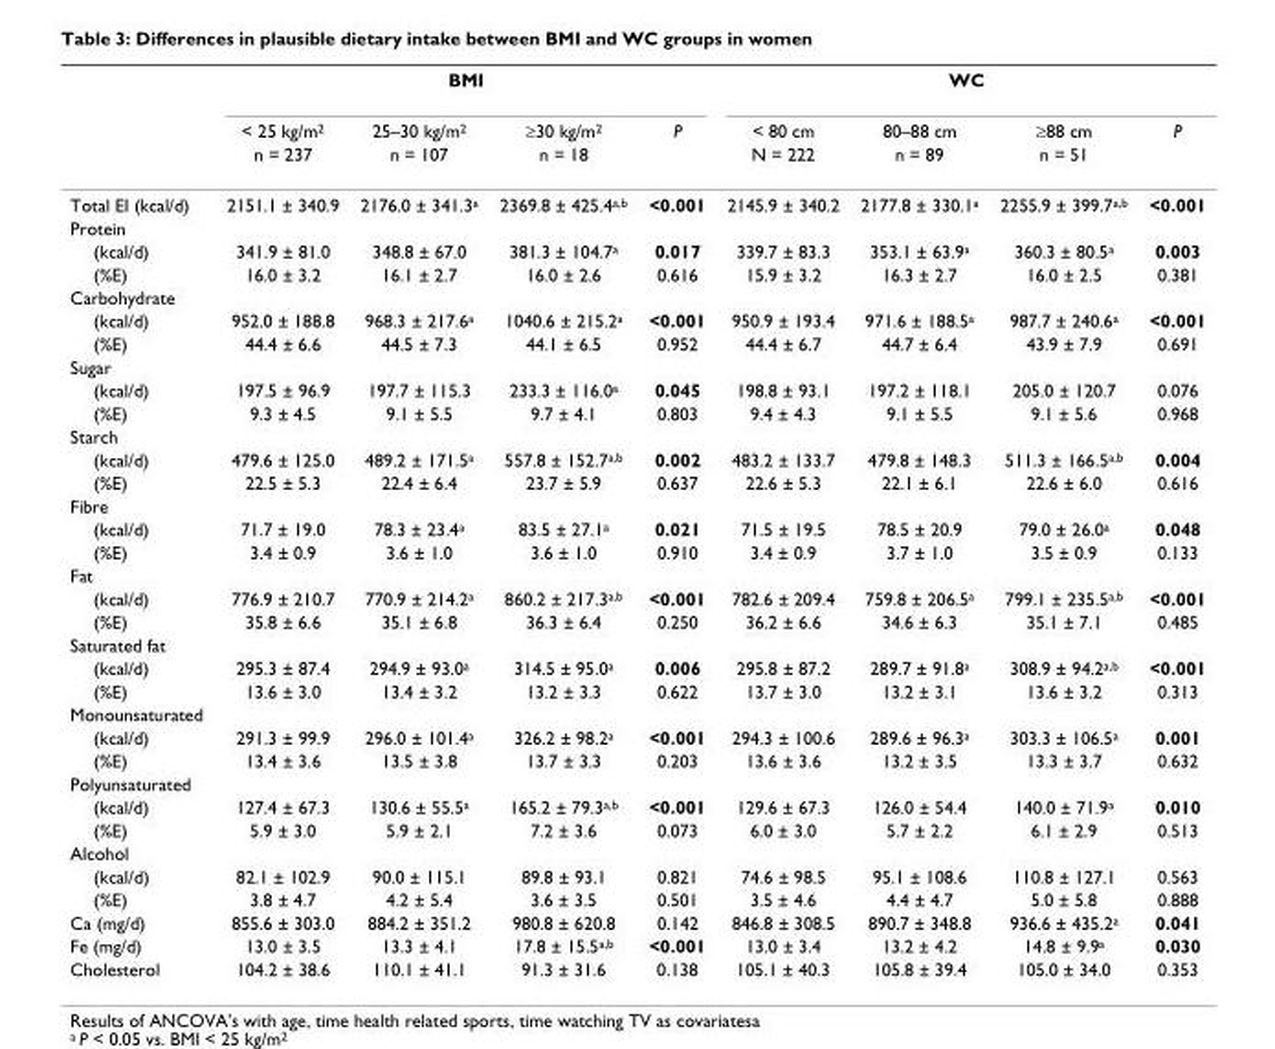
<table><thead><tr><td rowspan="3"></td><td colspan="4">BMI</td><td colspan="4">WC</td></tr><tr><td rowspan="2">&lt; 25 kg/m<sup>2</sup> n = 237</td><td rowspan="2">25–30 kg/m<sup>2</sup> n = 107</td><td rowspan="2">≥30 kg/m<sup>2</sup> n = 18</td><td rowspan="2">P</td><td rowspan="2">&lt; 80 cm N = 222</td><td rowspan="2">80–88 cm n = 89</td><td rowspan="2">≥88 cm n = 51</td><td rowspan="2">P</td></tr><tr></tr></thead><tbody><tr><td>Total EI (kcal/d)</td><td>2151.1 ± 340.9</td><td>2176.0 ± 341.3<sup>a</sup></td><td>2369.8 ± 425.4<sup>a,b</sup></td><td>&lt;0.001</td><td>2145.9 ± 340.2</td><td>2177.8 ± 330.1<sup>a</sup></td><td>2255.9 ± 399.7<sup>a,b</sup></td><td>&lt;0.001</td></tr><tr><td colspan="9">Protein</td></tr><tr><td>(kcal/d)</td><td>341.9 ± 81.0</td><td>348.8 ± 67.0</td><td>381.3 ± 104.7<sup>a</sup></td><td>0.017</td><td>339.7 ± 83.3</td><td>353.1 ± 63.9<sup>a</sup></td><td>360.3 ± 80.5<sup>a</sup></td><td>0.003</td></tr><tr><td>(%E)</td><td>16.0 ± 3.2</td><td>16.1 ± 2.7</td><td>16.0 ± 2.6</td><td>0.616</td><td>15.9 ± 3.2</td><td>16.3 ± 2.7</td><td>16.0 ± 2.5</td><td>0.381</td></tr><tr><td colspan="9">Carbohydrate</td></tr><tr><td>(kcal/d)</td><td>952.0 ± 188.8</td><td>968.3 ± 217.6<sup>a</sup></td><td>1040.6 ± 215.2<sup>a</sup></td><td>&lt;0.001</td><td>950.9 ± 193.4</td><td>971.6 ± 188.5<sup>a</sup></td><td>987.7 ± 240.6<sup>a</sup></td><td>&lt;0.001</td></tr><tr><td>(%E)</td><td>44.4 ± 6.6</td><td>44.5 ± 7.3</td><td>44.1 ± 6.5</td><td>0.952</td><td>44.4 ± 6.7</td><td>44.7 ± 6.4</td><td>43.9 ± 7.9</td><td>0.691</td></tr><tr><td colspan="9">Sugar</td></tr><tr><td>(kcal/d)</td><td>197.5 ± 96.9</td><td>197.7 ± 115.3</td><td>233.3 ± 116.0<sup>a</sup></td><td>0.045</td><td>198.8 ± 93.1</td><td>197.2 ± 118.1</td><td>205.0 ± 120.7</td><td>0.076</td></tr><tr><td>(%E)</td><td>9.3 ± 4.5</td><td>9.1 ± 5.5</td><td>9.7 ± 4.1</td><td>0.803</td><td>9.4 ± 4.3</td><td>9.1 ± 5.5</td><td>9.1 ± 5.6</td><td>0.968</td></tr><tr><td colspan="9">Starch</td></tr><tr><td>(kcal/d)</td><td>479.6 ± 125.0</td><td>489.2 ± 171.5<sup>a</sup></td><td>557.8 ± 152.7<sup>a,b</sup></td><td>0.002</td><td>483.2 ± 133.7</td><td>479.8 ± 148.3</td><td>511.3 ± 166.5<sup>a,b</sup></td><td>0.004</td></tr><tr><td>(%E)</td><td>22.5 ± 5.3</td><td>22.4 ± 6.4</td><td>23.7 ± 5.9</td><td>0.637</td><td>22.6 ± 5.3</td><td>22.1 ± 6.1</td><td>22.6 ± 6.0</td><td>0.616</td></tr><tr><td colspan="9">Fibre</td></tr><tr><td>(kcal/d)</td><td>71.7 ± 19.0</td><td>78.3 ± 23.4<sup>a</sup></td><td>83.5 ± 27.1<sup>a</sup></td><td>0.021</td><td>71.5 ± 19.5</td><td>78.5 ± 20.9</td><td>79.0 ± 26.0<sup>a</sup></td><td>0.048</td></tr><tr><td>(%E)</td><td>3.4 ± 0.9</td><td>3.6 ± 1.0</td><td>3.6 ± 1.0</td><td>0.910</td><td>3.4 ± 0.9</td><td>3.7 ± 1.0</td><td>3.5 ± 0.9</td><td>0.133</td></tr><tr><td colspan="9">Fat</td></tr><tr><td>(kcal/d)</td><td>776.9 ± 210.7</td><td>770.9 ± 214.2<sup>a</sup></td><td>860.2 ± 217.3<sup>a,b</sup></td><td>&lt;0.001</td><td>782.6 ± 209.4</td><td>759.8 ± 206.5<sup>a</sup></td><td>799.1 ± 235.5<sup>a,b</sup></td><td>&lt;0.001</td></tr><tr><td>(%E)</td><td>35.8 ± 6.6</td><td>35.1 ± 6.8</td><td>36.3 ± 6.4</td><td>0.250</td><td>36.2 ± 6.6</td><td>34.6 ± 6.3</td><td>35.1 ± 7.1</td><td>0.485</td></tr><tr><td colspan="9">Saturated fat</td></tr><tr><td>(kcal/d)</td><td>295.3 ± 87.4</td><td>294.9 ± 93.0<sup>a</sup></td><td>314.5 ± 95.0<sup>a</sup></td><td>0.006</td><td>295.8 ± 87.2</td><td>289.7 ± 91.8<sup>a</sup></td><td>308.9 ± 94.2<sup>a,b</sup></td><td>&lt;0.001</td></tr><tr><td>(%E)</td><td>13.6 ± 3.0</td><td>13.4 ± 3.2</td><td>13.2 ± 3.3</td><td>0.622</td><td>13.7 ± 3.0</td><td>13.2 ± 3.1</td><td>13.6 ± 3.2</td><td>0.313</td></tr><tr><td colspan="9">Monounsaturated</td></tr><tr><td>(kcal/d)</td><td>291.3 ± 99.9</td><td>296.0 ± 101.4<sup>a</sup></td><td>326.2 ± 98.2<sup>a</sup></td><td>&lt;0.001</td><td>294.3 ± 100.6</td><td>289.6 ± 96.3<sup>a</sup></td><td>303.3 ± 106.5<sup>a</sup></td><td>0.001</td></tr><tr><td>(%E)</td><td>13.4 ± 3.6</td><td>13.5 ± 3.8</td><td>13.7 ± 3.3</td><td>0.203</td><td>13.6 ± 3.6</td><td>13.2 ± 3.5</td><td>13.3 ± 3.7</td><td>0.632</td></tr><tr><td colspan="9">Polyunsaturated</td></tr><tr><td>(kcal/d)</td><td>127.4 ± 67.3</td><td>130.6 ± 55.5<sup>a</sup></td><td>165.2 ± 79.3<sup>a,b</sup></td><td>&lt;0.001</td><td>129.6 ± 67.3</td><td>126.0 ± 54.4</td><td>140.0 ± 71.9<sup>a</sup></td><td>0.010</td></tr><tr><td>(%E)</td><td>5.9 ± 3.0</td><td>5.9 ± 2.1</td><td>7.2 ± 3.6</td><td>0.073</td><td>6.0 ± 3.0</td><td>5.7 ± 2.2</td><td>6.1 ± 2.9</td><td>0.513</td></tr><tr><td colspan="9">Alcohol</td></tr><tr><td>(kcal/d)</td><td>82.1 ± 102.9</td><td>90.0 ± 115.1</td><td>89.8 ± 93.1</td><td>0.821</td><td>74.6 ± 98.5</td><td>95.1 ± 108.6</td><td>110.8 ± 127.1</td><td>0.563</td></tr><tr><td>(%E)</td><td>3.8 ± 4.7</td><td>4.2 ± 5.4</td><td>3.6 ± 3.5</td><td>0.501</td><td>3.5 ± 4.6</td><td>4.4 ± 4.7</td><td>5.0 ± 5.8</td><td>0.888</td></tr><tr><td>Ca (mg/d)</td><td>855.6 ± 303.0</td><td>884.2 ± 351.2</td><td>980.8 ± 620.8</td><td>0.142</td><td>846.8 ± 308.5</td><td>890.7 ± 348.8</td><td>936.6 ± 435.2<sup>a</sup></td><td>0.041</td></tr><tr><td>Fe (mg/d)</td><td>13.0 ± 3.5</td><td>13.3 ± 4.1</td><td>17.8 ± 15.5<sup>a,b</sup></td><td>&lt;0.001</td><td>13.0 ± 3.4</td><td>13.2 ± 4.2</td><td>14.8 ± 9.9<sup>a</sup></td><td>0.030</td></tr><tr><td>Cholesterol</td><td>104.2 ± 38.6</td><td>110.1 ± 41.1</td><td>91.3 ± 31.6</td><td>0.138</td><td>105.1 ± 40.3</td><td>105.8 ± 39.4</td><td>105.0 ± 34.0</td><td>0.353</td></tr></tbody></table>